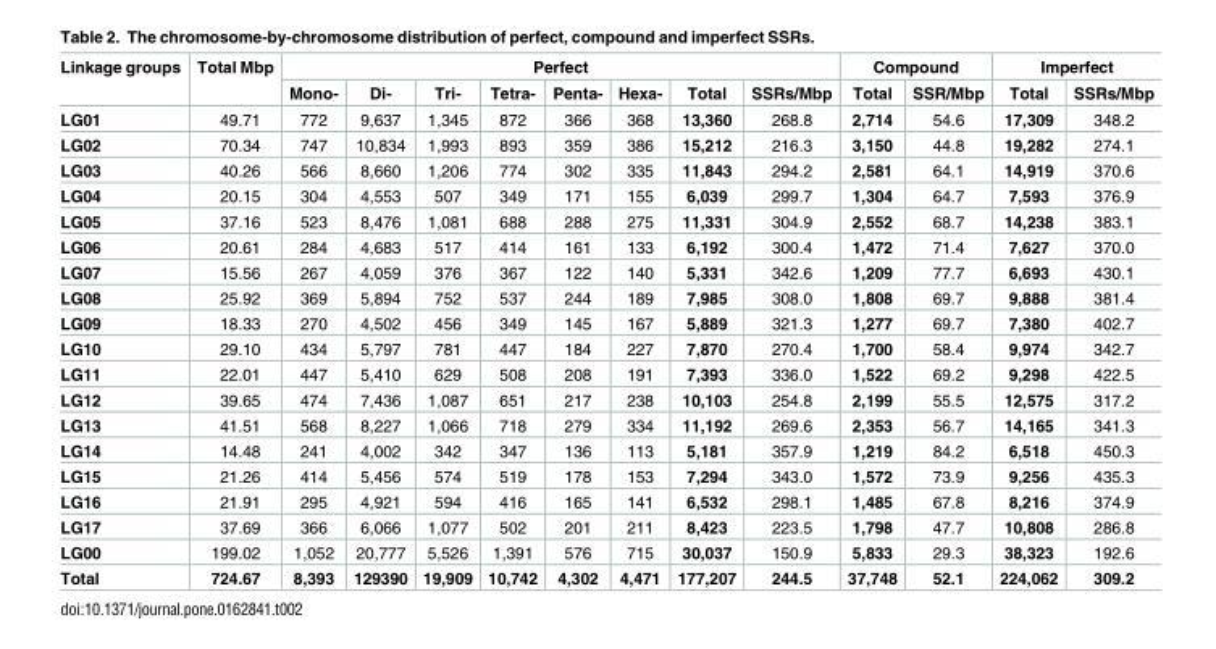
<table><thead><tr><td rowspan="2">Linkage groups</td><td rowspan="2">Total Mbp</td><td colspan="8">Perfect</td><td colspan="2">Compound</td><td colspan="2">Imperfect</td></tr><tr><td>Mono-</td><td>Di-</td><td>Tri-</td><td>Tetra-</td><td>Penta-</td><td>Hexa-</td><td>Total</td><td>SSRs/Mbp</td><td>Total</td><td>SSR/Mbp</td><td>Total</td><td>SSRs/Mbp</td></tr></thead><tbody><tr><td>LG01</td><td>49.71</td><td>772</td><td>9,637</td><td>1,345</td><td>872</td><td>366</td><td>368</td><td>13,360</td><td>268.8</td><td>2,714</td><td>54.6</td><td>17,309</td><td>348.2</td></tr><tr><td>LG02</td><td>70.34</td><td>747</td><td>10,834</td><td>1,993</td><td>893</td><td>359</td><td>386</td><td>15,212</td><td>216.3</td><td>3,150</td><td>44.8</td><td>19,282</td><td>274.1</td></tr><tr><td>LG03</td><td>40.26</td><td>566</td><td>8,660</td><td>1,206</td><td>774</td><td>302</td><td>335</td><td>11,843</td><td>294.2</td><td>2,581</td><td>64.1</td><td>14,919</td><td>370.6</td></tr><tr><td>LG04</td><td>20.15</td><td>304</td><td>4,553</td><td>507</td><td>349</td><td>171</td><td>155</td><td>6,039</td><td>299.7</td><td>1,304</td><td>64.7</td><td>7,593</td><td>376.9</td></tr><tr><td>LG05</td><td>37.16</td><td>523</td><td>8,476</td><td>1,081</td><td>688</td><td>288</td><td>275</td><td>11,331</td><td>304.9</td><td>2,552</td><td>68.7</td><td>14,238</td><td>383.1</td></tr><tr><td>LG06</td><td>20.61</td><td>284</td><td>4,683</td><td>517</td><td>414</td><td>161</td><td>133</td><td>6,192</td><td>300.4</td><td>1,472</td><td>71.4</td><td>7,627</td><td>370.0</td></tr><tr><td>LG07</td><td>15.56</td><td>267</td><td>4,059</td><td>376</td><td>367</td><td>122</td><td>140</td><td>5,331</td><td>342.6</td><td>1,209</td><td>77.7</td><td>6,693</td><td>430.1</td></tr><tr><td>LG08</td><td>25.92</td><td>369</td><td>5,894</td><td>752</td><td>537</td><td>244</td><td>189</td><td>7,985</td><td>308.0</td><td>1,808</td><td>69.7</td><td>9,888</td><td>381.4</td></tr><tr><td>LG09</td><td>18.33</td><td>270</td><td>4,502</td><td>456</td><td>349</td><td>145</td><td>167</td><td>5,889</td><td>321.3</td><td>1,277</td><td>69.7</td><td>7,380</td><td>402.7</td></tr><tr><td>LG10</td><td>29.10</td><td>434</td><td>5,797</td><td>781</td><td>447</td><td>184</td><td>227</td><td>7,870</td><td>270.4</td><td>1,700</td><td>58.4</td><td>9,974</td><td>342.7</td></tr><tr><td>LG11</td><td>22.01</td><td>447</td><td>5,410</td><td>629</td><td>508</td><td>208</td><td>191</td><td>7,393</td><td>336.0</td><td>1,522</td><td>69.2</td><td>9,298</td><td>422.5</td></tr><tr><td>LG12</td><td>39.65</td><td>474</td><td>7,436</td><td>1,087</td><td>651</td><td>217</td><td>238</td><td>10,103</td><td>254.8</td><td>2,199</td><td>55.5</td><td>12,575</td><td>317.2</td></tr><tr><td>LG13</td><td>41.51</td><td>568</td><td>8,227</td><td>1,066</td><td>718</td><td>279</td><td>334</td><td>11,192</td><td>269.6</td><td>2,353</td><td>56.7</td><td>14,165</td><td>341.3</td></tr><tr><td>LG14</td><td>14.48</td><td>241</td><td>4,002</td><td>342</td><td>347</td><td>136</td><td>113</td><td>5,181</td><td>357.9</td><td>1,219</td><td>84.2</td><td>6,518</td><td>450.3</td></tr><tr><td>LG15</td><td>21.26</td><td>414</td><td>5,456</td><td>574</td><td>519</td><td>178</td><td>153</td><td>7,294</td><td>343.0</td><td>1,572</td><td>73.9</td><td>9,256</td><td>435.3</td></tr><tr><td>LG16</td><td>21.91</td><td>295</td><td>4,921</td><td>594</td><td>416</td><td>165</td><td>141</td><td>6,532</td><td>298.1</td><td>1,485</td><td>67.8</td><td>8,216</td><td>374.9</td></tr><tr><td>LG17</td><td>37.69</td><td>366</td><td>6,066</td><td>1,077</td><td>502</td><td>201</td><td>211</td><td>8,423</td><td>223.5</td><td>1,798</td><td>47.7</td><td>10,808</td><td>286.8</td></tr><tr><td>LG00</td><td>199.02</td><td>1,052</td><td>20,777</td><td>5,526</td><td>1,391</td><td>576</td><td>715</td><td>30,037</td><td>150.9</td><td>5,833</td><td>29.3</td><td>38,323</td><td>192.6</td></tr><tr><td>Total</td><td>724.67</td><td>8,393</td><td>129390</td><td>19,909</td><td>10,742</td><td>4,302</td><td>4,471</td><td>177,207</td><td>244.5</td><td>37,748</td><td>52.1</td><td>224,062</td><td>309.2</td></tr></tbody></table>